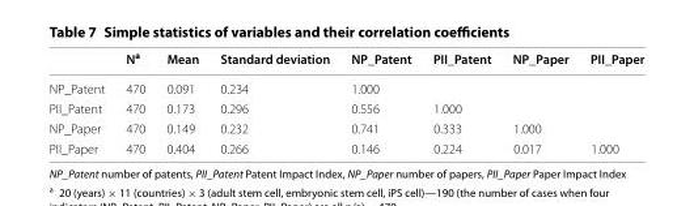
<table><thead><tr><td></td><td>N<sup>a</sup></td><td>Mean</td><td>Standard deviation</td><td>NP_Patent</td><td>PII_Patent</td><td>NP_Paper</td><td>PII_Paper</td></tr></thead><tbody><tr><td>NP_Patent</td><td>470</td><td>0.091</td><td>0.234</td><td>1.000</td><td></td><td></td><td></td></tr><tr><td>PII_Patent</td><td>470</td><td>0.173</td><td>0.296</td><td>0.556</td><td>1.000</td><td></td><td></td></tr><tr><td>NP_Paper</td><td>470</td><td>0.149</td><td>0.232</td><td>0.741</td><td>0.333</td><td>1.000</td><td></td></tr><tr><td>PII_Paper</td><td>470</td><td>0.404</td><td>0.266</td><td>0.146</td><td>0.224</td><td>0.017</td><td>1.000</td></tr></tbody></table>